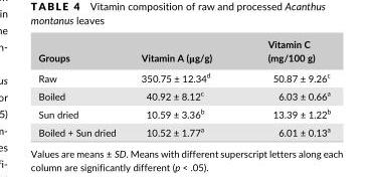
<table><thead><tr><td>Groups</td><td>Vitamin A (μg/g)</td><td>Vitamin C (mg/100 g)</td></tr></thead><tbody><tr><td>Raw</td><td>350.75 ± 12.34<sup>d</sup></td><td>50.87 ± 9.26<sup>c</sup></td></tr><tr><td>Boiled</td><td>40.92 ± 8.12<sup>c</sup></td><td>6.03 ± 0.66<sup>a</sup></td></tr><tr><td>Sun dried</td><td>10.59 ± 3.36<sup>b</sup></td><td>13.39 ± 1.22<sup>b</sup></td></tr><tr><td>Boiled + Sun dried</td><td>10.52 ± 1.77<sup>a</sup></td><td>6.01 ± 0.13<sup>a</sup></td></tr></tbody></table>